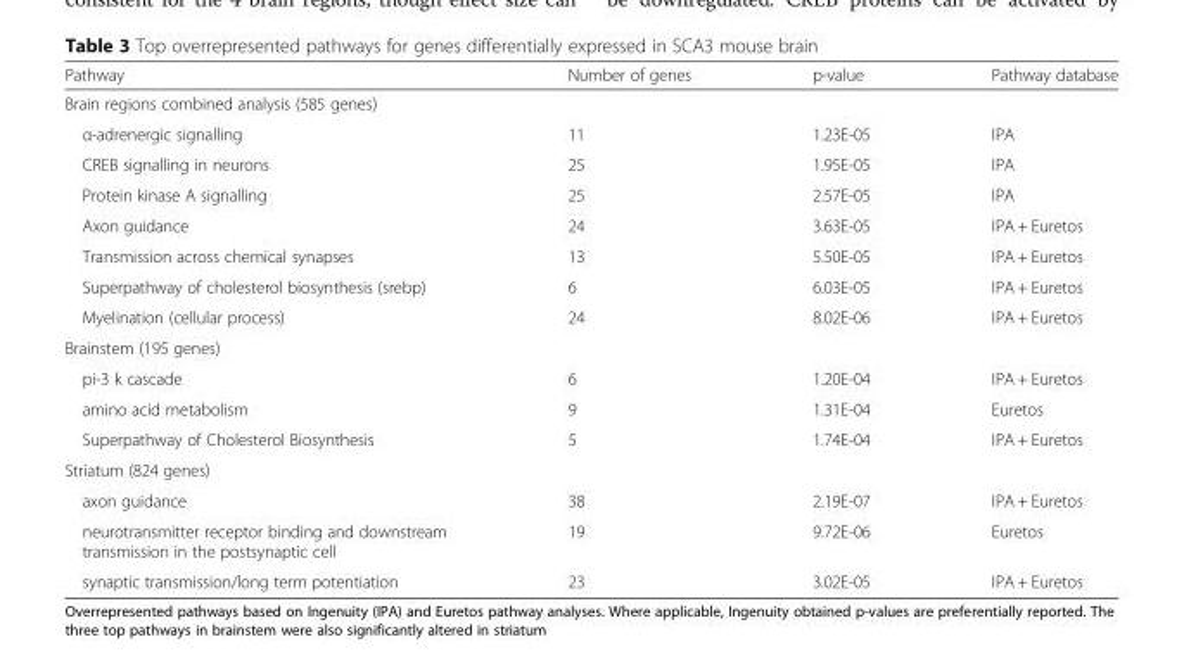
<table><thead><tr><td>Pathway</td><td>Number of genes</td><td>p-value</td><td>Pathway database</td></tr></thead><tbody><tr><td colspan="4">Brain regions combined analysis (585 genes)</td></tr><tr><td>α-adrenergic signalling</td><td>11</td><td>1.23E-05</td><td>IPA</td></tr><tr><td>CREB signalling in neurons</td><td>25</td><td>1.95E-05</td><td>IPA</td></tr><tr><td>Protein kinase A signalling</td><td>25</td><td>2.57E-05</td><td>IPA</td></tr><tr><td>Axon guidance</td><td>24</td><td>3.63E-05</td><td>IPA + Euretos</td></tr><tr><td>Transmission across chemical synapses</td><td>13</td><td>5.50E-05</td><td>IPA + Euretos</td></tr><tr><td>Superpathway of cholesterol biosynthesis (srebp)</td><td>6</td><td>6.03E-05</td><td>IPA + Euretos</td></tr><tr><td>Myelination (cellular process)</td><td>24</td><td>8.02E-06</td><td>IPA + Euretos</td></tr><tr><td colspan="4">Brainstem (195 genes)</td></tr><tr><td>pi-3 k cascade</td><td>6</td><td>1.20E-04</td><td>IPA + Euretos</td></tr><tr><td>amino acid metabolism</td><td>9</td><td>1.31E-04</td><td>Euretos</td></tr><tr><td>Superpathway of Cholesterol Biosynthesis</td><td>5</td><td>1.74E-04</td><td>IPA + Euretos</td></tr><tr><td colspan="4">Striatum (824 genes)</td></tr><tr><td>axon guidance</td><td>38</td><td>2.19E-07</td><td>IPA + Euretos</td></tr><tr><td>neurotransmitter receptor binding and downstream transmission in the postsynaptic cell</td><td>19</td><td>9.72E-06</td><td>Euretos</td></tr><tr><td>synaptic transmission/long term potentiation</td><td>23</td><td>3.02E-05</td><td>IPA + Euretos</td></tr></tbody></table>